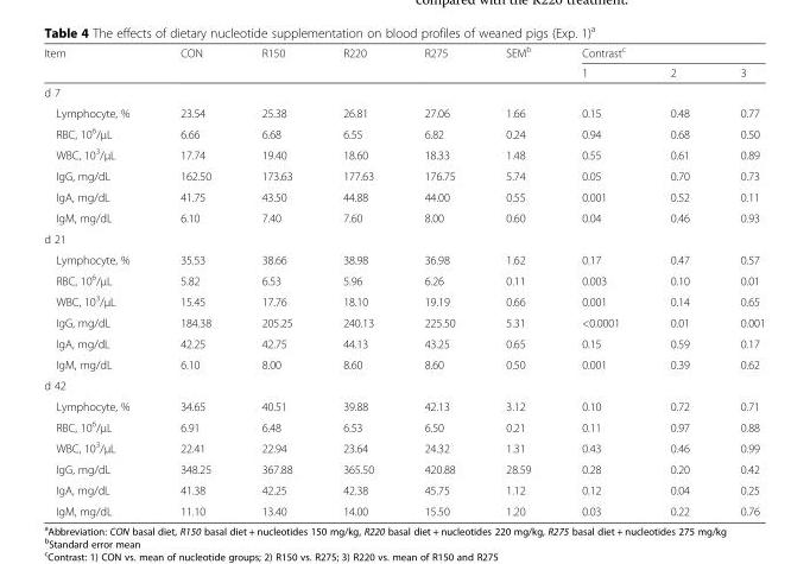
<table><thead><tr><td rowspan="2">Item</td><td rowspan="2">CON</td><td rowspan="2">R150</td><td rowspan="2">R220</td><td rowspan="2">R275</td><td rowspan="2">SEM<sup>b</sup></td><td colspan="3">Contrast<sup>c</sup></td></tr><tr><td>1</td><td>2</td><td>3</td></tr></thead><tbody><tr><td colspan="9">d 7</td></tr><tr><td>Lymphocyte, %</td><td>23.54</td><td>25.38</td><td>26.81</td><td>27.06</td><td>1.66</td><td>0.15</td><td>0.48</td><td>0.77</td></tr><tr><td>RBC, 10<sup>6</sup>/μL</td><td>6.66</td><td>6.68</td><td>6.55</td><td>6.82</td><td>0.24</td><td>0.94</td><td>0.68</td><td>0.50</td></tr><tr><td>WBC, 10<sup>3</sup>/μL</td><td>17.74</td><td>19.40</td><td>18.60</td><td>18.33</td><td>1.48</td><td>0.55</td><td>0.61</td><td>0.89</td></tr><tr><td>IgG, mg/dL</td><td>162.50</td><td>173.63</td><td>177.63</td><td>176.75</td><td>5.74</td><td>0.05</td><td>0.70</td><td>0.73</td></tr><tr><td>IgA, mg/dL</td><td>41.75</td><td>43.50</td><td>44.88</td><td>44.00</td><td>0.55</td><td>0.001</td><td>0.52</td><td>0.11</td></tr><tr><td>IgM, mg/dL</td><td>6.10</td><td>7.40</td><td>7.60</td><td>8.00</td><td>0.60</td><td>0.04</td><td>0.46</td><td>0.93</td></tr><tr><td colspan="9">d 21</td></tr><tr><td>Lymphocyte, %</td><td>35.53</td><td>38.66</td><td>38.98</td><td>36.98</td><td>1.62</td><td>0.17</td><td>0.47</td><td>0.57</td></tr><tr><td>RBC, 10<sup>6</sup>/μL</td><td>5.82</td><td>6.53</td><td>5.96</td><td>6.26</td><td>0.11</td><td>0.003</td><td>0.10</td><td>0.01</td></tr><tr><td>WBC, 10<sup>3</sup>/μL</td><td>15.45</td><td>17.76</td><td>18.10</td><td>19.19</td><td>0.66</td><td>0.001</td><td>0.14</td><td>0.65</td></tr><tr><td>IgG, mg/dL</td><td>184.38</td><td>205.25</td><td>240.13</td><td>225.50</td><td>5.31</td><td>&lt;0.0001</td><td>0.01</td><td>0.001</td></tr><tr><td>IgA, mg/dL</td><td>42.25</td><td>42.75</td><td>44.13</td><td>43.25</td><td>0.65</td><td>0.15</td><td>0.59</td><td>0.17</td></tr><tr><td>IgM, mg/dL</td><td>6.10</td><td>8.00</td><td>8.60</td><td>8.60</td><td>0.50</td><td>0.001</td><td>0.39</td><td>0.62</td></tr><tr><td colspan="9">d 42</td></tr><tr><td>Lymphocyte, %</td><td>34.65</td><td>40.51</td><td>39.88</td><td>42.13</td><td>3.12</td><td>0.10</td><td>0.72</td><td>0.71</td></tr><tr><td>RBC, 10<sup>6</sup>/μL</td><td>6.91</td><td>6.48</td><td>6.53</td><td>6.50</td><td>0.21</td><td>0.11</td><td>0.97</td><td>0.88</td></tr><tr><td>WBC, 10<sup>3</sup>/μL</td><td>22.41</td><td>22.94</td><td>23.64</td><td>24.32</td><td>1.31</td><td>0.43</td><td>0.46</td><td>0.99</td></tr><tr><td>IgG, mg/dL</td><td>348.25</td><td>367.88</td><td>365.50</td><td>420.88</td><td>28.59</td><td>0.28</td><td>0.20</td><td>0.42</td></tr><tr><td>IgA, mg/dL</td><td>41.38</td><td>42.25</td><td>42.38</td><td>45.75</td><td>1.12</td><td>0.12</td><td>0.04</td><td>0.25</td></tr><tr><td>IgM, mg/dL</td><td>11.10</td><td>13.40</td><td>14.00</td><td>15.50</td><td>1.20</td><td>0.03</td><td>0.22</td><td>0.76</td></tr></tbody></table>